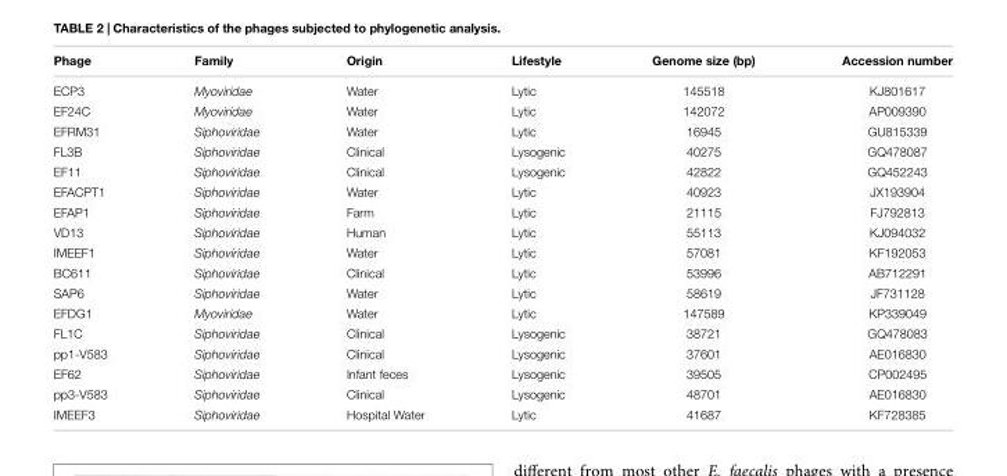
<table><thead><tr><td>Phage</td><td>Family</td><td>Origin</td><td>Lifestyle</td><td>Genome size (bp)</td><td>Accession number</td></tr></thead><tbody><tr><td>ECP3</td><td>Myoviridae</td><td>Water</td><td>Lytic</td><td>145518</td><td>KJ801617</td></tr><tr><td>EF24C</td><td>Myoviridae</td><td>Water</td><td>Lytic</td><td>142072</td><td>AP009390</td></tr><tr><td>EFRM31</td><td>Siphoviridae</td><td>Water</td><td>Lytic</td><td>16945</td><td>GU815339</td></tr><tr><td>FL3B</td><td>Siphoviridae</td><td>Clinical</td><td>Lysogenic</td><td>40275</td><td>GQ478087</td></tr><tr><td>EF11</td><td>Siphoviridae</td><td>Clinical</td><td>Lysogenic</td><td>42822</td><td>GQ452243</td></tr><tr><td>EFACPT1</td><td>Siphoviridae</td><td>Water</td><td>Lytic</td><td>40923</td><td>JX193904</td></tr><tr><td>EFAP1</td><td>Siphoviridae</td><td>Farm</td><td>Lytic</td><td>21115</td><td>FJ792813</td></tr><tr><td>VD13</td><td>Siphoviridae</td><td>Human</td><td>Lytic</td><td>55113</td><td>KJ094032</td></tr><tr><td>IMEEF1</td><td>Siphoviridae</td><td>Water</td><td>Lytic</td><td>57081</td><td>KF192053</td></tr><tr><td>BC611</td><td>Siphoviridae</td><td>Clinical</td><td>Lytic</td><td>53996</td><td>AB712291</td></tr><tr><td>SAP6</td><td>Siphoviridae</td><td>Water</td><td>Lytic</td><td>58619</td><td>JF731128</td></tr><tr><td>EFDG1</td><td>Myoviridae</td><td>Water</td><td>Lytic</td><td>147589</td><td>KP339049</td></tr><tr><td>FL1C</td><td>Siphoviridae</td><td>Clinical</td><td>Lysogenic</td><td>38721</td><td>GQ478083</td></tr><tr><td>pp1-V583</td><td>Siphoviridae</td><td>Clinical</td><td>Lysogenic</td><td>37601</td><td>AE016830</td></tr><tr><td>EF62</td><td>Siphoviridae</td><td>Infant feces</td><td>Lysogenic</td><td>39505</td><td>CP002495</td></tr><tr><td>pp3-V583</td><td>Siphoviridae</td><td>Clinical</td><td>Lysogenic</td><td>48701</td><td>AE016830</td></tr><tr><td>IMEEF3</td><td>Siphoviridae</td><td>Hospital Water</td><td>Lytic</td><td>41687</td><td>KF728385</td></tr></tbody></table>